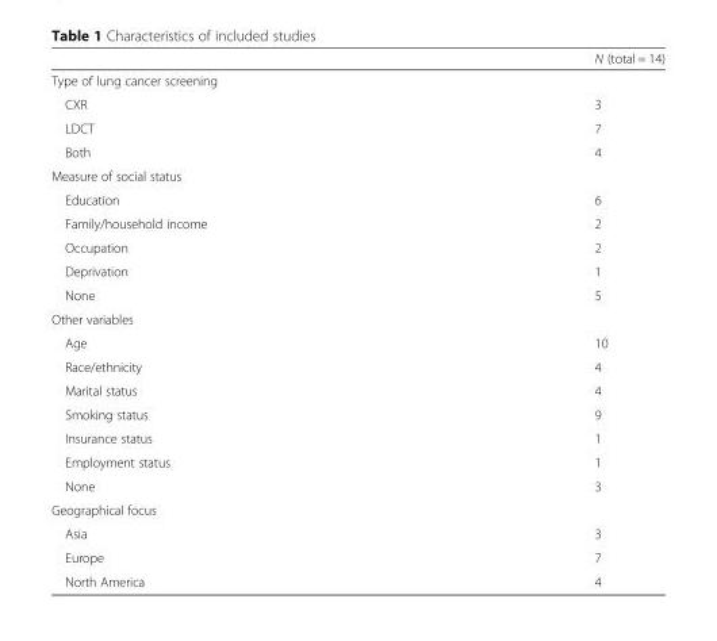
<table><thead><tr><td></td><td>N (total = 14)</td></tr></thead><tbody><tr><td colspan="2">Type of lung cancer screening</td></tr><tr><td>CXR</td><td>3</td></tr><tr><td>LDCT</td><td>7</td></tr><tr><td>Both</td><td>4</td></tr><tr><td colspan="2">Measure of social status</td></tr><tr><td>Education</td><td>6</td></tr><tr><td>Family/household income</td><td>2</td></tr><tr><td>Occupation</td><td>2</td></tr><tr><td>Deprivation</td><td>1</td></tr><tr><td>None</td><td>5</td></tr><tr><td colspan="2">Other variables</td></tr><tr><td>Age</td><td>10</td></tr><tr><td>Race/ethnicity</td><td>4</td></tr><tr><td>Marital status</td><td>4</td></tr><tr><td>Smoking status</td><td>9</td></tr><tr><td>Insurance status</td><td>1</td></tr><tr><td>Employment status</td><td>1</td></tr><tr><td>None</td><td>3</td></tr><tr><td colspan="2">Geographical focus</td></tr><tr><td>Asia</td><td>3</td></tr><tr><td>Europe</td><td>7</td></tr><tr><td>North America</td><td>4</td></tr></tbody></table>